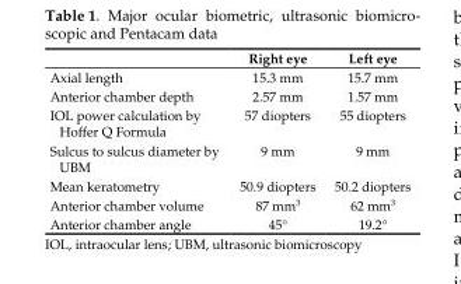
<table><thead><tr><td></td><td>Right eye</td><td>Left eye</td></tr></thead><tbody><tr><td>Axial length</td><td>15.3 mm</td><td>15.7 mm</td></tr><tr><td>Anterior chamber depth</td><td>2.57 mm</td><td>1.57 mm</td></tr><tr><td>IOL power calculation by Hoffer Q Formula</td><td>57 diopters</td><td>55 diopters</td></tr><tr><td>Sulcus to sulcus diameter by UBM</td><td>9 mm</td><td>9 mm</td></tr><tr><td>Mean keratometry</td><td>50.9 diopters</td><td>50.2 diopters</td></tr><tr><td>Anterior chamber volume</td><td>87 mm<sup>3</sup></td><td>62 mm<sup>3</sup></td></tr><tr><td>Anterior chamber angle</td><td>45°</td><td>19.2°</td></tr></tbody></table>